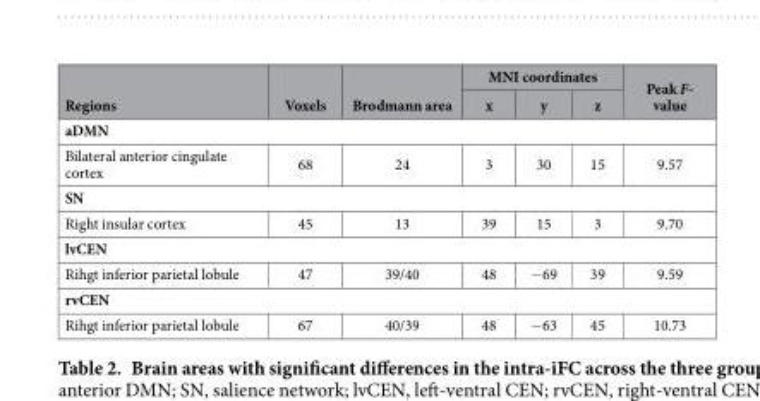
<table><thead><tr><td rowspan="2">Regions</td><td rowspan="2">Voxels</td><td rowspan="2">Brodmann area</td><td colspan="3">MNI coordinates</td><td rowspan="2">Peak F- value</td></tr><tr><td>x</td><td>y</td><td>z</td></tr></thead><tbody><tr><td colspan="7">aDMN</td></tr><tr><td>Bilateral anterior cingulate cortex</td><td>68</td><td>24</td><td>3</td><td>30</td><td>15</td><td>9.57</td></tr><tr><td colspan="7">SN</td></tr><tr><td>Right insular cortex</td><td>45</td><td>13</td><td>39</td><td>15</td><td>3</td><td>9.70</td></tr><tr><td colspan="7">lvCEN</td></tr><tr><td>Rihgt inferior parietal lobule</td><td>47</td><td>39/40</td><td>48</td><td>− 69</td><td>39</td><td>9.59</td></tr><tr><td colspan="7">rvCEN</td></tr><tr><td>Rihgt inferior parietal lobule</td><td>67</td><td>40/39</td><td>48</td><td>− 63</td><td>45</td><td>10.73</td></tr></tbody></table>